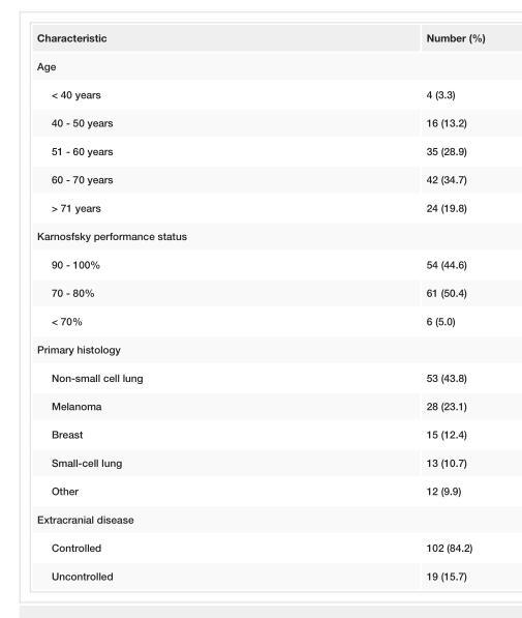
<table><tbody><tr><td>Characteristic</td><td>Number (%)</td></tr><tr><td colspan="2">Age</td></tr><tr><td>&lt; 40 years</td><td>4 (3.3)</td></tr><tr><td>40 - 50 years</td><td>16 (13.2)</td></tr><tr><td>51 - 60 years</td><td>35 (28.9)</td></tr><tr><td>60 - 70 years</td><td>42 (34.7)</td></tr><tr><td>&gt; 71 years</td><td>24 (19.8)</td></tr><tr><td colspan="2">Karnosfsky performance status</td></tr><tr><td>90 - 100%</td><td>54 (44.6)</td></tr><tr><td>70 - 80%</td><td>61 (50.4)</td></tr><tr><td>&lt; 70%</td><td>6 (5.0)</td></tr><tr><td colspan="2">Primary histology</td></tr><tr><td>Non-small cell lung</td><td>53 (43.8)</td></tr><tr><td>Melanoma</td><td>28 (23.1)</td></tr><tr><td>Breast</td><td>15 (12.4)</td></tr><tr><td>Small-cell lung</td><td>13 (10.7)</td></tr><tr><td>Other</td><td>12 (9.9)</td></tr><tr><td colspan="2">Extracranial disease</td></tr><tr><td>Controlled</td><td>102 (84.2)</td></tr><tr><td>Uncontrolled</td><td>19 (15.7)</td></tr></tbody></table>